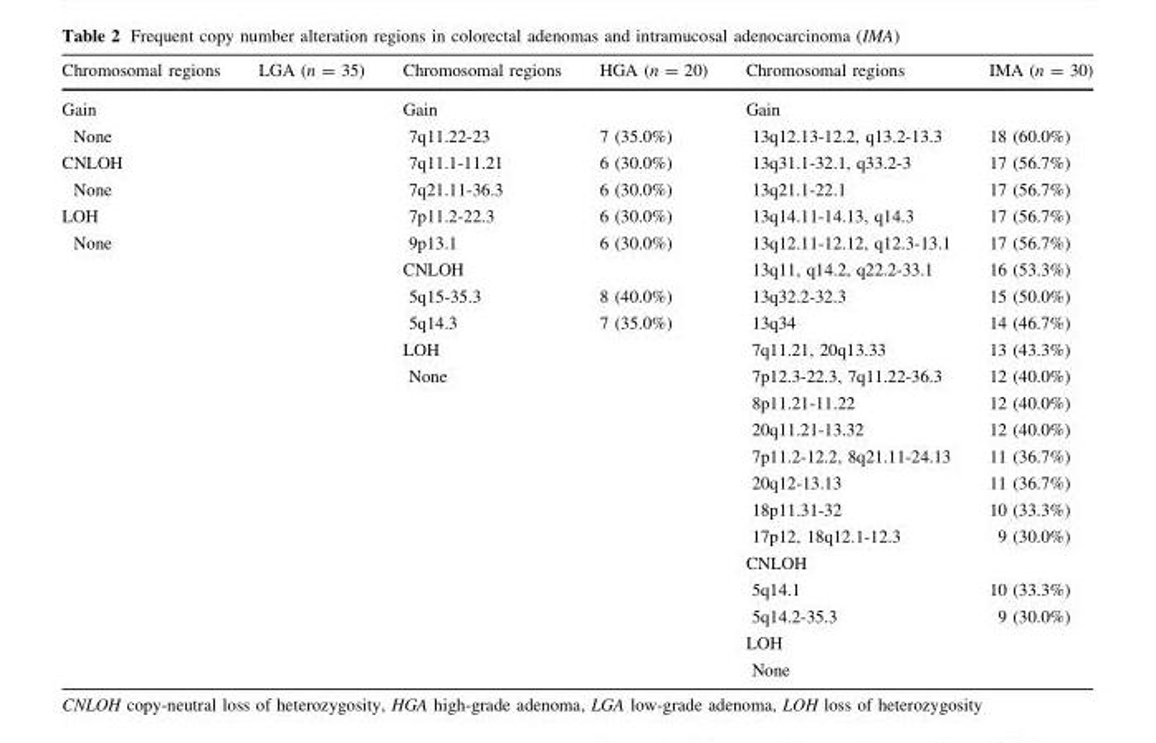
<table><thead><tr><td>Chromosomal regions</td><td>LGA (n = 35)</td><td>Chromosomal regions</td><td>HGA (n = 20)</td><td>Chromosomal regions</td><td>IMA (n = 30)</td></tr></thead><tbody><tr><td>Gain</td><td></td><td>Gain</td><td></td><td>Gain</td><td></td></tr><tr><td>None</td><td></td><td>7q11.22-23</td><td>7 (35.0%)</td><td>13q12.13-12.2, q13.2-13.3</td><td>18 (60.0%)</td></tr><tr><td>CNLOH</td><td></td><td>7q11.1-11.21</td><td>6 (30.0%)</td><td>13q31.1-32.1, q33.2-3</td><td>17 (56.7%)</td></tr><tr><td>None</td><td></td><td>7q21.11-36.3</td><td>6 (30.0%)</td><td>13q21.1-22.1</td><td>17 (56.7%)</td></tr><tr><td>LOH</td><td></td><td>7p11.2-22.3</td><td>6 (30.0%)</td><td>13q14.11-14.13, q14.3</td><td>17 (56.7%)</td></tr><tr><td rowspan="17">None</td><td></td><td>9p13.1</td><td>6 (30.0%)</td><td>13q12.11-12.12, q12.3-13.1</td><td>17 (56.7%)</td></tr><tr><td></td><td>CNLOH</td><td></td><td>13q11, q14.2, q22.2-33.1</td><td>16 (53.3%)</td></tr><tr><td></td><td>5q15-35.3</td><td>8 (40.0%)</td><td>13q32.2-32.3</td><td>15 (50.0%)</td></tr><tr><td></td><td>5q14.3</td><td>7 (35.0%)</td><td>13q34</td><td>14 (46.7%)</td></tr><tr><td></td><td>LOH</td><td></td><td>7q11.21, 20q13.33</td><td>13 (43.3%)</td></tr><tr><td></td><td>None</td><td></td><td>7p12.3-22.3, 7q11.22-36.3</td><td>12 (40.0%)</td></tr><tr><td></td><td></td><td></td><td>8p11.21-11.22</td><td>12 (40.0%)</td></tr><tr><td></td><td></td><td></td><td>20q11.21-13.32</td><td>12 (40.0%)</td></tr><tr><td></td><td></td><td></td><td>7p11.2-12.2, 8q21.11-24.13</td><td>11 (36.7%)</td></tr><tr><td></td><td></td><td></td><td>20q12-13.13</td><td>11 (36.7%)</td></tr><tr><td></td><td></td><td></td><td>18p11.31-32</td><td>10 (33.3%)</td></tr><tr><td></td><td></td><td></td><td>17p12, 18q12.1-12.3</td><td>9 (30.0%)</td></tr><tr><td></td><td></td><td></td><td>CNLOH</td><td></td></tr><tr><td></td><td></td><td></td><td>5q14.1</td><td>10 (33.3%)</td></tr><tr><td></td><td></td><td></td><td>5q14.2-35.3</td><td>9 (30.0%)</td></tr><tr><td></td><td></td><td></td><td>LOH</td><td></td></tr><tr><td></td><td></td><td></td><td>None</td><td></td></tr></tbody></table>